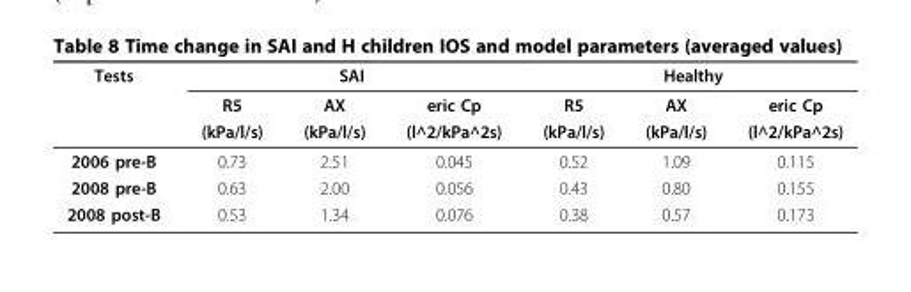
<table><thead><tr><td rowspan="3">Tests</td><td colspan="3">SAI</td><td colspan="3">Healthy</td></tr><tr><td rowspan="2">R5 (kPa/l/s)</td><td rowspan="2">AX (kPa/l/s)</td><td rowspan="2">eric Cp (l^2/kPa^2s)</td><td rowspan="2">R5 (kPa/l/s)</td><td rowspan="2">AX (kPa/l/s)</td><td rowspan="2">eric Cp (l^2/kPa^2s)</td></tr><tr></tr></thead><tbody><tr><td>2006 pre-B</td><td>0.73</td><td>2.51</td><td>0.045</td><td>0.52</td><td>1.09</td><td>0.115</td></tr><tr><td>2008 pre-B</td><td>0.63</td><td>2.00</td><td>0.056</td><td>0.43</td><td>0.80</td><td>0.155</td></tr><tr><td>2008 post-B</td><td>0.53</td><td>1.34</td><td>0.076</td><td>0.38</td><td>0.57</td><td>0.173</td></tr></tbody></table>